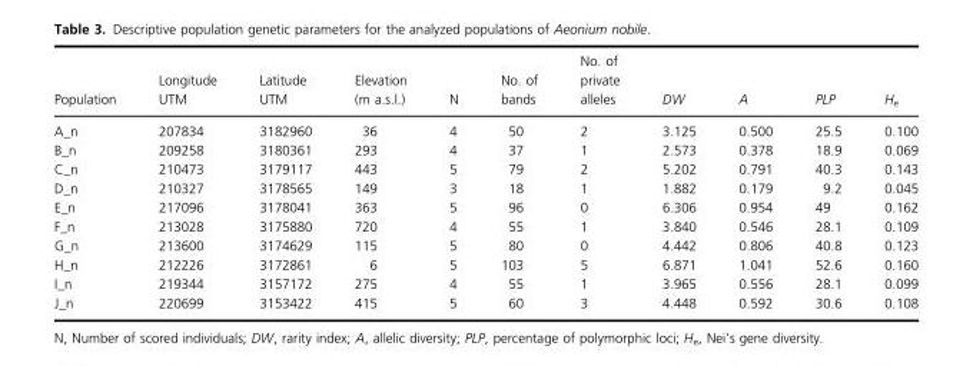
<table><thead><tr><td>Population</td><td>Longitude UTM</td><td>Latitude UTM</td><td>Elevation (m a.s.l.)</td><td>N</td><td>No. of bands</td><td>No. of private alleles</td><td>DW</td><td>A</td><td>PLP</td><td>H<sub>e</sub></td></tr></thead><tbody><tr><td>A_n</td><td>207834</td><td>3182960</td><td>36</td><td>4</td><td>50</td><td>2</td><td>3.125</td><td>0.500</td><td>25.5</td><td>0.100</td></tr><tr><td>B_n</td><td>209258</td><td>3180361</td><td>293</td><td>4</td><td>37</td><td>1</td><td>2.573</td><td>0.378</td><td>18.9</td><td>0.069</td></tr><tr><td>C_n</td><td>210473</td><td>3179117</td><td>443</td><td>5</td><td>79</td><td>2</td><td>5.202</td><td>0.791</td><td>40.3</td><td>0.143</td></tr><tr><td>D_n</td><td>210327</td><td>3178565</td><td>149</td><td>3</td><td>18</td><td>1</td><td>1.882</td><td>0.179</td><td>9.2</td><td>0.045</td></tr><tr><td>E_n</td><td>217096</td><td>3178041</td><td>363</td><td>5</td><td>96</td><td>0</td><td>6.306</td><td>0.954</td><td>49</td><td>0.162</td></tr><tr><td>F_n</td><td>213028</td><td>3175880</td><td>720</td><td>4</td><td>55</td><td>1</td><td>3.840</td><td>0.546</td><td>28.1</td><td>0.109</td></tr><tr><td>G_n</td><td>213600</td><td>3174629</td><td>115</td><td>5</td><td>80</td><td>0</td><td>4.442</td><td>0.806</td><td>40.8</td><td>0.123</td></tr><tr><td>H_n</td><td>212226</td><td>3172861</td><td>6</td><td>5</td><td>103</td><td>5</td><td>6.871</td><td>1.041</td><td>52.6</td><td>0.160</td></tr><tr><td>I_n</td><td>219344</td><td>3157172</td><td>275</td><td>4</td><td>55</td><td>1</td><td>3.965</td><td>0.556</td><td>28.1</td><td>0.099</td></tr><tr><td>J_n</td><td>220699</td><td>3153422</td><td>415</td><td>5</td><td>60</td><td>3</td><td>4.448</td><td>0.592</td><td>30.6</td><td>0.108</td></tr></tbody></table>